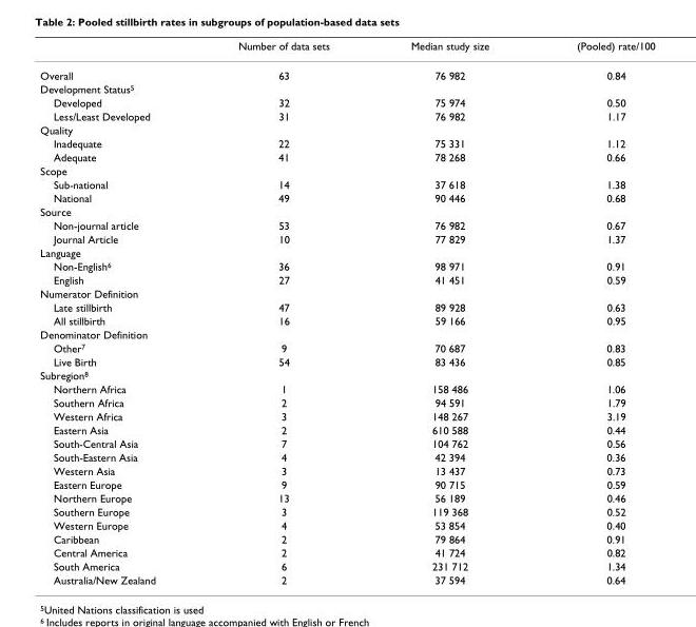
<table><thead><tr><td></td><td>Number of data sets</td><td>Median study size</td><td>(Pooled) rate/100</td></tr></thead><tbody><tr><td>Overall</td><td>63</td><td>76 982</td><td>0.84</td></tr><tr><td colspan="4">Development Status<sup>5</sup></td></tr><tr><td>Developed</td><td>32</td><td>75 974</td><td>0.50</td></tr><tr><td>Less/Least Developed</td><td>31</td><td>76 982</td><td>1.17</td></tr><tr><td colspan="4">Quality</td></tr><tr><td>Inadequate</td><td>22</td><td>75 331</td><td>1.12</td></tr><tr><td>Adequate</td><td>41</td><td>78 268</td><td>0.66</td></tr><tr><td colspan="4">Scope</td></tr><tr><td>Sub-national</td><td>14</td><td>37 618</td><td>1.38</td></tr><tr><td>National</td><td>49</td><td>90 446</td><td>0.68</td></tr><tr><td colspan="4">Source</td></tr><tr><td>Non-journal article</td><td>53</td><td>76 982</td><td>0.67</td></tr><tr><td>Journal Article</td><td>10</td><td>77 829</td><td>1.37</td></tr><tr><td colspan="4">Language</td></tr><tr><td>Non-English<sup>6</sup></td><td>36</td><td>98 971</td><td>0.91</td></tr><tr><td>English</td><td>27</td><td>41 451</td><td>0.59</td></tr><tr><td colspan="4">Numerator Definition</td></tr><tr><td>Late stillbirth</td><td>47</td><td>89 928</td><td>0.63</td></tr><tr><td>All stillbirth</td><td>16</td><td>59 166</td><td>0.95</td></tr><tr><td colspan="4">Denominator Definition</td></tr><tr><td>Other<sup>7</sup></td><td>9</td><td>70 687</td><td>0.83</td></tr><tr><td>Live Birth</td><td>54</td><td>83 436</td><td>0.85</td></tr><tr><td colspan="4">Subregion<sup>8</sup></td></tr><tr><td>Northern Africa</td><td>1</td><td>158 486</td><td>1.06</td></tr><tr><td>Southern Africa</td><td>2</td><td>94 591</td><td>1.79</td></tr><tr><td>Western Africa</td><td>3</td><td>148 267</td><td>3.19</td></tr><tr><td>Eastern Asia</td><td>2</td><td>610 588</td><td>0.44</td></tr><tr><td>South-Central Asia</td><td>7</td><td>104 762</td><td>0.56</td></tr><tr><td>South-Eastern Asia</td><td>4</td><td>42 394</td><td>0.36</td></tr><tr><td>Western Asia</td><td>3</td><td>13 437</td><td>0.73</td></tr><tr><td>Eastern Europe</td><td>9</td><td>90 715</td><td>0.59</td></tr><tr><td>Northern Europe</td><td>13</td><td>56 189</td><td>0.46</td></tr><tr><td>Southern Europe</td><td>3</td><td>119 368</td><td>0.52</td></tr><tr><td>Western Europe</td><td>4</td><td>53 854</td><td>0.40</td></tr><tr><td>Caribbean</td><td>2</td><td>79 864</td><td>0.91</td></tr><tr><td>Central America</td><td>2</td><td>41 724</td><td>0.82</td></tr><tr><td>South America</td><td>6</td><td>231 712</td><td>1.34</td></tr><tr><td>Australia/New Zealand</td><td>2</td><td>37 594</td><td>0.64</td></tr></tbody></table>